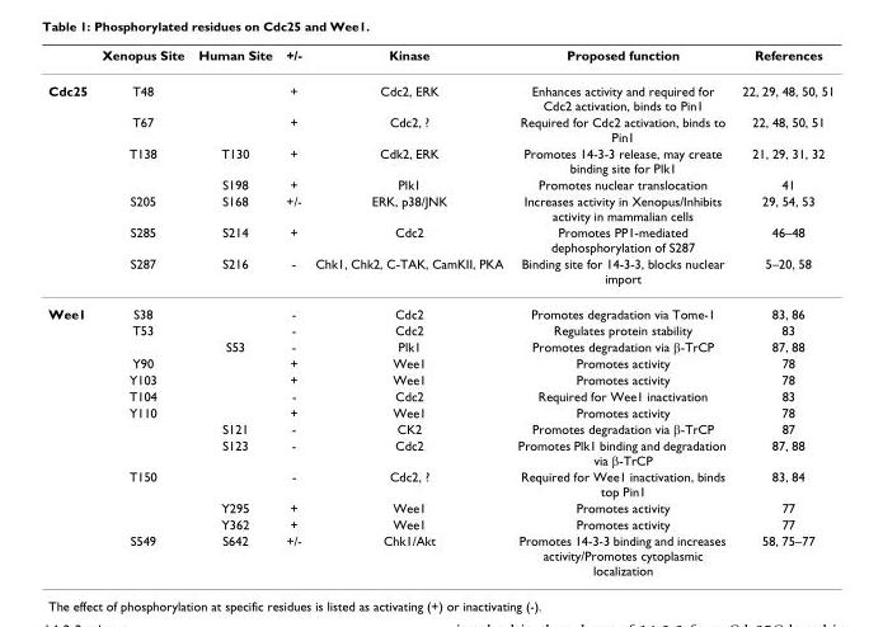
<table><thead><tr><td></td><td>Xenopus Site</td><td>Human Site</td><td>+/-</td><td>Kinase</td><td>Proposed function</td><td>References</td></tr></thead><tbody><tr><td rowspan="7">Cdc25</td><td>T48</td><td></td><td>+</td><td>Cdc2, ERK</td><td>Enhances activity and required for Cdc2 activation, binds to Pin1</td><td>22, 29, 48, 50, 51</td></tr><tr><td>T67</td><td></td><td>+</td><td>Cdc2, ?</td><td>Required for Cdc2 activation, binds to Pin1</td><td>22, 48, 50, 51</td></tr><tr><td>T138</td><td>T130</td><td>+</td><td>Cdk2, ERK</td><td>Promotes 14-3-3 release, may create binding site for Plk1</td><td>21, 29, 31, 32</td></tr><tr><td></td><td>S198</td><td>+</td><td>Plk1</td><td>Promotes nuclear translocation</td><td>41</td></tr><tr><td>S205</td><td>S168</td><td>+/-</td><td>ERK, p38/JNK</td><td>Increases activity in Xenopus/Inhibits activity in mammalian cells</td><td>29, 54, 53</td></tr><tr><td>S285</td><td>S214</td><td>+</td><td>Cdc2</td><td>Promotes PP1-mediated dephosphorylation of S287</td><td>46–48</td></tr><tr><td>S287</td><td>S216</td><td>-</td><td>Chk1, Chk2, C-TAK, CamKII, PKA</td><td>Binding site for 14-3-3, blocks nuclear import</td><td>5–20, 58</td></tr><tr><td rowspan="13">Wee1</td><td>S38</td><td></td><td>-</td><td>Cdc2</td><td>Promotes degradation via Tome-1</td><td>83, 86</td></tr><tr><td>T53</td><td></td><td>-</td><td>Cdc2</td><td>Regulates protein stability</td><td>83</td></tr><tr><td></td><td>S53</td><td>-</td><td>Plk1</td><td>Promotes degradation via β-TrCP</td><td>87, 88</td></tr><tr><td>Y90</td><td></td><td>+</td><td>Wee1</td><td>Promotes activity</td><td>78</td></tr><tr><td>Y103</td><td></td><td>+</td><td>Wee1</td><td>Promotes activity</td><td>78</td></tr><tr><td>T104</td><td></td><td>-</td><td>Cdc2</td><td>Required for Wee1 inactivation</td><td>83</td></tr><tr><td>Y110</td><td></td><td>+</td><td>Wee1</td><td>Promotes activity</td><td>78</td></tr><tr><td></td><td>S121</td><td>-</td><td>CK2</td><td>Promotes degradation via β-TrCP</td><td>87</td></tr><tr><td></td><td>S123</td><td>-</td><td>Cdc2</td><td>Promotes Plk1 binding and degradation via β-TrCP</td><td>87, 88</td></tr><tr><td>T150</td><td></td><td>-</td><td>Cdc2, ?</td><td>Required for Wee1 inactivation, binds top Pin1</td><td>83, 84</td></tr><tr><td></td><td>Y295</td><td>+</td><td>Wee1</td><td>Promotes activity</td><td>77</td></tr><tr><td></td><td>Y362</td><td>+</td><td>Wee1</td><td>Promotes activity</td><td>77</td></tr><tr><td>S549</td><td>S642</td><td>+/-</td><td>Chk1/Akt</td><td>Promotes 14-3-3 binding and increases activity/Promotes cytoplasmic localization</td><td>58, 75–77</td></tr></tbody></table>